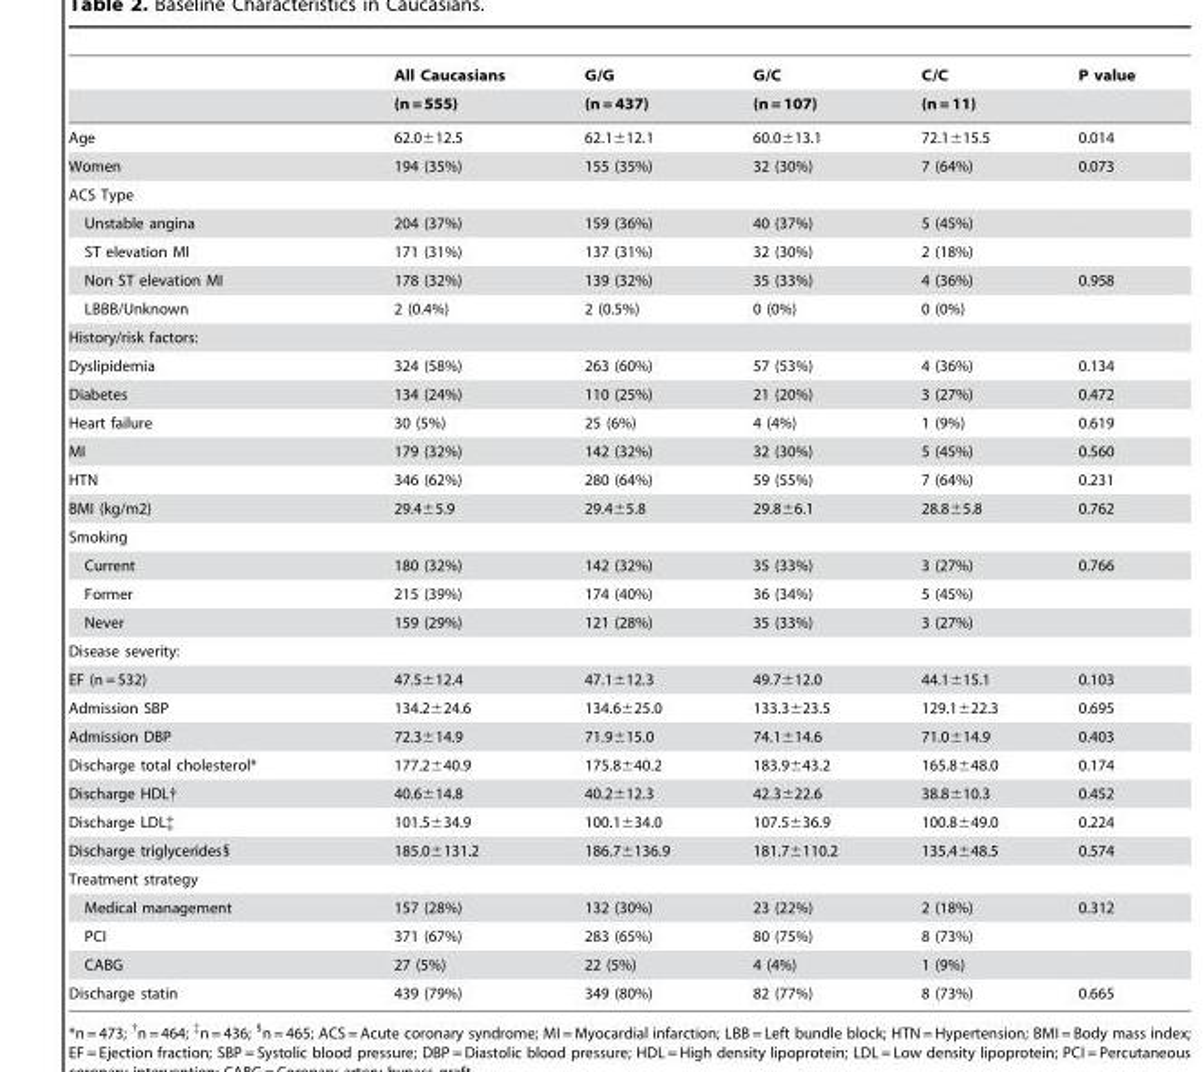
<table><thead><tr><td rowspan="2"></td><td rowspan="2">All Caucasians (n = 555)</td><td rowspan="2">G/G (n = 437)</td><td rowspan="2">G/C (n = 107)</td><td rowspan="2">C/C (n = 11)</td><td rowspan="2">P value</td></tr><tr></tr></thead><tbody><tr><td>Age</td><td>62.0±12.5</td><td>62.1±12.1</td><td>60.0±13.1</td><td>72.1±15.5</td><td>0.014</td></tr><tr><td>Women</td><td>194 (35%)</td><td>155 (35%)</td><td>32 (30%)</td><td>7 (64%)</td><td>0.073</td></tr><tr><td colspan="6">ACS Type</td></tr><tr><td>Unstable angina</td><td>204 (37%)</td><td>159 (36%)</td><td>40 (37%)</td><td>5 (45%)</td><td></td></tr><tr><td>ST elevation MI</td><td>171 (31%)</td><td>137 (31%)</td><td>32 (30%)</td><td>2 (18%)</td><td></td></tr><tr><td>Non ST elevation MI</td><td>178 (32%)</td><td>139 (32%)</td><td>35 (33%)</td><td>4 (36%)</td><td>0.958</td></tr><tr><td>LBBB/Unknown</td><td>2 (0.4%)</td><td>2 (0.5%)</td><td>0 (0%)</td><td>0 (0%)</td><td></td></tr><tr><td colspan="6">History/risk factors:</td></tr><tr><td>Dyslipidemia</td><td>324 (58%)</td><td>263 (60%)</td><td>57 (53%)</td><td>4 (36%)</td><td>0.134</td></tr><tr><td>Diabetes</td><td>134 (24%)</td><td>110 (25%)</td><td>21 (20%)</td><td>3 (27%)</td><td>0.472</td></tr><tr><td>Heart failure</td><td>30 (5%)</td><td>25 (6%)</td><td>4 (4%)</td><td>1 (9%)</td><td>0.619</td></tr><tr><td>MI</td><td>179 (32%)</td><td>142 (32%)</td><td>32 (30%)</td><td>5 (45%)</td><td>0.560</td></tr><tr><td>HTN</td><td>346 (62%)</td><td>280 (64%)</td><td>59 (55%)</td><td>7 (64%)</td><td>0.231</td></tr><tr><td>BMI (kg/m2)</td><td>29.4±5.9</td><td>29.4±5.8</td><td>29.8±6.1</td><td>28.8±5.8</td><td>0.762</td></tr><tr><td colspan="6">Smoking</td></tr><tr><td>Current</td><td>180 (32%)</td><td>142 (32%)</td><td>35 (33%)</td><td>3 (27%)</td><td>0.766</td></tr><tr><td>Former</td><td>215 (39%)</td><td>174 (40%)</td><td>36 (34%)</td><td>5 (45%)</td><td></td></tr><tr><td>Never</td><td>159 (29%)</td><td>121 (28%)</td><td>35 (33%)</td><td>3 (27%)</td><td></td></tr><tr><td colspan="6">Disease severity:</td></tr><tr><td>EF (n = 532)</td><td>47.5±12.4</td><td>47.1±12.3</td><td>49.7±12.0</td><td>44.1±15.1</td><td>0.103</td></tr><tr><td>Admission SBP</td><td>134.2±24.6</td><td>134.6±25.0</td><td>133.3±23.5</td><td>129.1±22.3</td><td>0.695</td></tr><tr><td>Admission DBP</td><td>72.3±14.9</td><td>71.9±15.0</td><td>74.1±14.6</td><td>71.0±14.9</td><td>0.403</td></tr><tr><td>Discharge total cholesterol*</td><td>177.2±40.9</td><td>175.8±40.2</td><td>183.9±43.2</td><td>165.8±48.0</td><td>0.174</td></tr><tr><td>Discharge HDL†</td><td>40.6±14.8</td><td>40.2±12.3</td><td>42.3±22.6</td><td>38.8±10.3</td><td>0.452</td></tr><tr><td>Discharge LDL‡</td><td>101.5±34.9</td><td>100.1±34.0</td><td>107.5±36.9</td><td>100.8±49.0</td><td>0.224</td></tr><tr><td>Discharge triglycerides§</td><td>185.0±131.2</td><td>186.7±136.9</td><td>181.7±110.2</td><td>135.4±48.5</td><td>0.574</td></tr><tr><td colspan="6">Treatment strategy</td></tr><tr><td>Medical management</td><td>157 (28%)</td><td>132 (30%)</td><td>23 (22%)</td><td>2 (18%)</td><td>0.312</td></tr><tr><td>PCI</td><td>371 (67%)</td><td>283 (65%)</td><td>80 (75%)</td><td>8 (73%)</td><td></td></tr><tr><td>CABG</td><td>27 (5%)</td><td>22 (5%)</td><td>4 (4%)</td><td>1 (9%)</td><td></td></tr><tr><td>Discharge statin</td><td>439 (79%)</td><td>349 (80%)</td><td>82 (77%)</td><td>8 (73%)</td><td>0.665</td></tr></tbody></table>